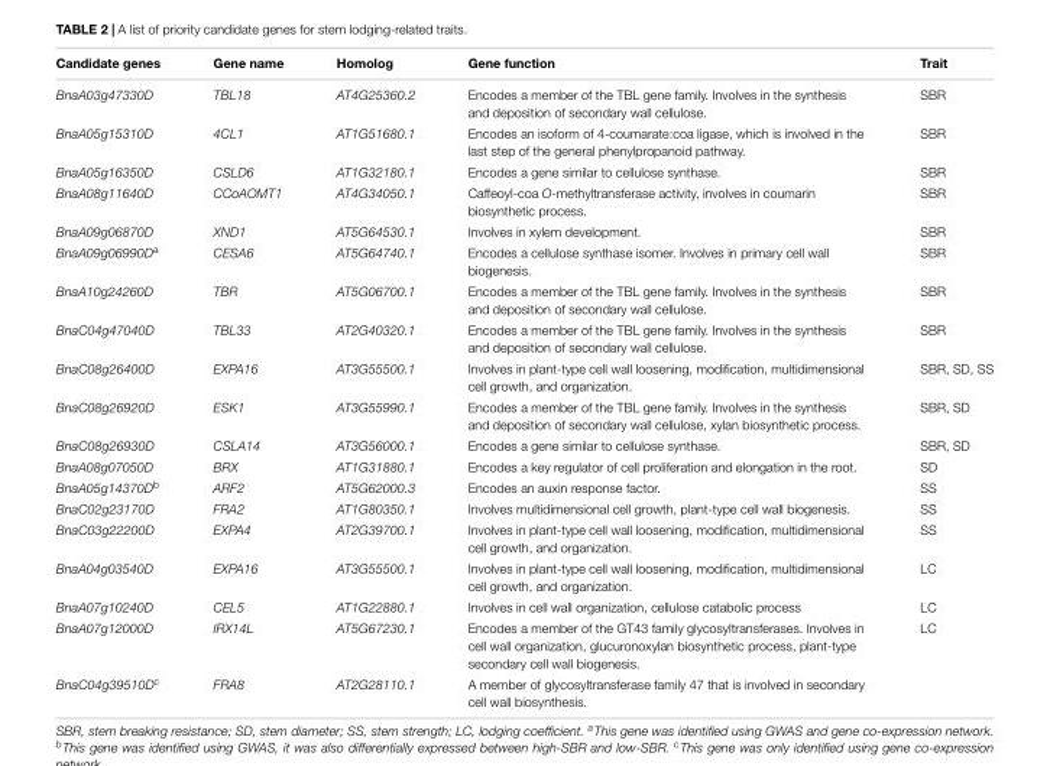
<table><thead><tr><td>Candidate genes</td><td>Gene name</td><td>Homolog</td><td>Gene function</td><td>Trait</td></tr></thead><tbody><tr><td>BnaA03g47330D</td><td>TBL18</td><td>AT4G25360.2</td><td>Encodes a member of the TBL gene family. Involves in the synthesis and deposition of secondary wall cellulose.</td><td>SBR</td></tr><tr><td>BnaA05g15310D</td><td>4CL1</td><td>AT1G51680.1</td><td>Encodes an isoform of 4-coumarate:coa ligase, which is involved in the last step of the general phenylpropanoid pathway.</td><td>SBR</td></tr><tr><td>BnaA05g16350D</td><td>CSLD6</td><td>AT1G32180.1</td><td>Encodes a gene similar to cellulose synthase.</td><td>SBR</td></tr><tr><td>BnaA08g11640D</td><td>CCoAOMT1</td><td>AT4G34050.1</td><td>Caffeoyl-coa O-methyltransferase activity, involves in coumarin biosynthetic process.</td><td>SBR</td></tr><tr><td>BnaA09g06870D</td><td>XND1</td><td>AT5G64530.1</td><td>Involves in xylem development.</td><td>SBR</td></tr><tr><td>BnaA09g06990D<sup>a</sup></td><td>CESA6</td><td>AT5G64740.1</td><td>Encodes a cellulose synthase isomer. Involves in primary cell wall biogenesis.</td><td>SBR</td></tr><tr><td>BnaA10g24260D</td><td>TBR</td><td>AT5G06700.1</td><td>Encodes a member of the TBL gene family. Involves in the synthesis and deposition of secondary wall cellulose.</td><td>SBR</td></tr><tr><td>BnaC04g47040D</td><td>TBL33</td><td>AT2G40320.1</td><td>Encodes a member of the TBL gene family. Involves in the synthesis and deposition of secondary wall cellulose.</td><td>SBR</td></tr><tr><td>BnaC08g26400D</td><td>EXPA16</td><td>AT3G55500.1</td><td>Involves in plant-type cell wall loosening, modification, multidimensional cell growth, and organization.</td><td>SBR, SD, SS</td></tr><tr><td>BnaC08g26920D</td><td>ESK1</td><td>AT3G55990.1</td><td>Encodes a member of the TBL gene family. Involves in the synthesis and deposition of secondary wall cellulose, xylan biosynthetic process.</td><td>SBR, SD</td></tr><tr><td>BnaC08g26930D</td><td>CSLA14</td><td>AT3G56000.1</td><td>Encodes a gene similar to cellulose synthase.</td><td>SBR, SD</td></tr><tr><td>BnaA08g07050D</td><td>BRX</td><td>AT1G31880.1</td><td>Encodes a key regulator of cell proliferation and elongation in the root.</td><td>SD</td></tr><tr><td>BnaA05g14370D<sup>b</sup></td><td>ARF2</td><td>AT5G62000.3</td><td>Encodes an auxin response factor.</td><td>SS</td></tr><tr><td>BnaC02g23170D</td><td>FRA2</td><td>AT1G80350.1</td><td>Involves multidimensional cell growth, plant-type cell wall biogenesis.</td><td>SS</td></tr><tr><td>BnaC03g22200D</td><td>EXPA4</td><td>AT2G39700.1</td><td>Involves in plant-type cell wall loosening, modification, multidimensional cell growth, and organization.</td><td>SS</td></tr><tr><td>BnaA04g03540D</td><td>EXPA16</td><td>AT3G55500.1</td><td>Involves in plant-type cell wall loosening, modification, multidimensional cell growth, and organization.</td><td>LC</td></tr><tr><td>BnaA07g10240D</td><td>CEL5</td><td>AT1G22880.1</td><td>Involves in cell wall organization, cellulose catabolic process</td><td>LC</td></tr><tr><td>BnaA07g12000D</td><td>IRX14L</td><td>AT5G67230.1</td><td>Encodes a member of the GT43 family glycosyltransferases. Involves in cell wall organization, glucuronoxylan biosynthetic process, plant-type secondary cell wall biogenesis.</td><td>LC</td></tr><tr><td>BnaC04g39510D<sup>c</sup></td><td>FRA8</td><td>AT2G28110.1</td><td>A member of glycosyltransferase family 47 that is involved in secondary cell wall biosynthesis.</td><td></td></tr></tbody></table>